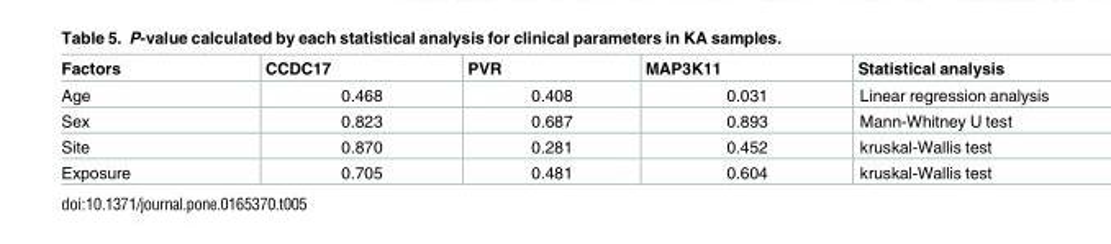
<table><thead><tr><td>Factors</td><td>CCDC17</td><td>PVR</td><td>MAP3K11</td><td>Statistical analysis</td></tr></thead><tbody><tr><td>Age</td><td>0.468</td><td>0.408</td><td>0.031</td><td>Linear regression analysis</td></tr><tr><td>Sex</td><td>0.823</td><td>0.687</td><td>0.893</td><td>Mann-Whitney U test</td></tr><tr><td>Site</td><td>0.870</td><td>0.281</td><td>0.452</td><td>kruskal-Wallis test</td></tr><tr><td>Exposure</td><td>0.705</td><td>0.481</td><td>0.604</td><td>kruskal-Wallis test</td></tr></tbody></table>